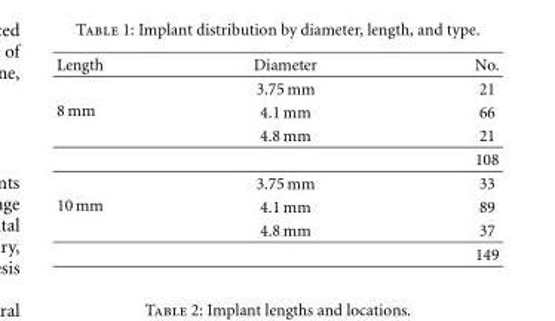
<table><thead><tr><td>Length</td><td>Diameter</td><td>No.</td></tr></thead><tbody><tr><td rowspan="4">8 mm</td><td>3.75 mm</td><td>21</td></tr><tr><td>4.1 mm</td><td>66</td></tr><tr><td>4.8 mm</td><td>21</td></tr><tr><td></td><td>108</td></tr><tr><td rowspan="4">10 mm</td><td>3.75 mm</td><td>33</td></tr><tr><td>4.1 mm</td><td>89</td></tr><tr><td>4.8 mm</td><td>37</td></tr><tr><td></td><td>149</td></tr></tbody></table>